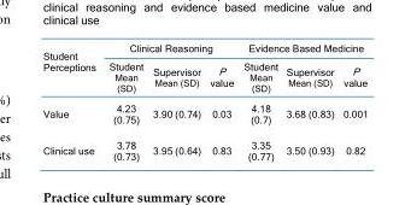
<table><thead><tr><td rowspan="2">Student Perceptions</td><td colspan="3">Clinical Reasoning</td><td colspan="3">Evidence Based Medicine</td></tr><tr><td>Student Mean (SD)</td><td>Supervisor Mean (SD)</td><td>P value</td><td>Student Mean (SD)</td><td>Supervisor Mean (SD)</td><td>P value</td></tr></thead><tbody><tr><td>Value</td><td>4.23 (0.75)</td><td>3.90 (0.74)</td><td>0.03</td><td>4.18 (0.7)</td><td>3.68 (0.83)</td><td>0.001</td></tr><tr><td>Clinical use</td><td>3.78 (0.73)</td><td>3.95 (0.64)</td><td>0.83</td><td>3.35 (0.77)</td><td>3.50 (0.93)</td><td>0.82</td></tr></tbody></table>